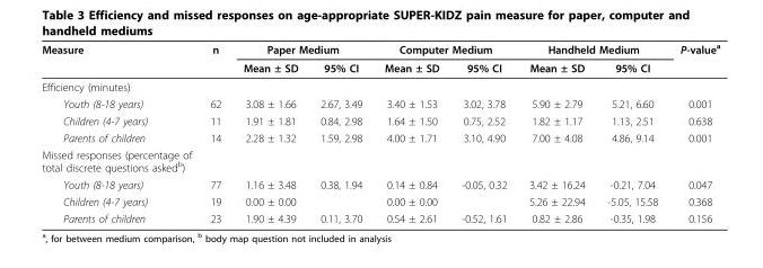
<table><thead><tr><td rowspan="2">Measure</td><td rowspan="2">n</td><td colspan="2">Paper Medium</td><td colspan="2">Computer Medium</td><td colspan="2">Handheld Medium</td><td rowspan="2">P-value<sup>a</sup></td></tr><tr><td>Mean ± SD</td><td>95% CI</td><td>Mean ± SD</td><td>95% CI</td><td>Mean ± SD</td><td>95% CI</td></tr></thead><tbody><tr><td colspan="9">Efficiency (minutes)</td></tr><tr><td>Youth (8-18 years)</td><td>62</td><td>3.08 ± 1.66</td><td>2.67, 3.49</td><td>3.40 ± 1.53</td><td>3.02, 3.78</td><td>5.90 ± 2.79</td><td>5.21, 6.60</td><td>0.001</td></tr><tr><td>Children (4-7 years)</td><td>11</td><td>1.91 ± 1.81</td><td>0.84, 2.98</td><td>1.64 ± 1.50</td><td>0.75, 2.52</td><td>1.82 ± 1.17</td><td>1.13, 2.51</td><td>0.638</td></tr><tr><td>Parents of children</td><td>14</td><td>2.28 ± 1.32</td><td>1.59, 2.98</td><td>4.00 ± 1.71</td><td>3.10, 4.90</td><td>7.00 ± 4.08</td><td>4.86, 9.14</td><td>0.001</td></tr><tr><td colspan="9">Missed responses (percentage of total discrete questions asked<sup>b</sup>)</td></tr><tr><td>Youth (8-18 years)</td><td>77</td><td>1.16 ± 3.48</td><td>0.38, 1.94</td><td>0.14 ± 0.84</td><td>-0.05, 0.32</td><td>3.42 ± 16.24</td><td>-0.21, 7.04</td><td>0.047</td></tr><tr><td>Children (4-7 years)</td><td>19</td><td>0.00 ± 0.00</td><td></td><td>0.00 ± 0.00</td><td></td><td>5.26 ± 22.94</td><td>-5.05, 15.58</td><td>0.368</td></tr><tr><td>Parents of children</td><td>23</td><td>1.90 ± 4.39</td><td>0.11, 3.70</td><td>0.54 ± 2.61</td><td>-0.52, 1.61</td><td>0.82 ± 2.86</td><td>-0.35, 1.98</td><td>0.156</td></tr></tbody></table>